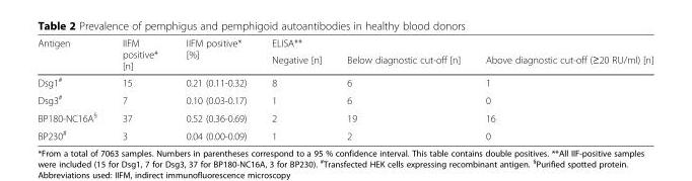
<table><thead><tr><td rowspan="2">Antigen</td><td rowspan="2">IIFM positive* [n]</td><td rowspan="2">IIFM positive* [%]</td><td colspan="3">ELISA**</td></tr><tr><td>Negative [n]</td><td>Below diagnostic cut-off [n]</td><td>Above diagnostic cut-off (≥20 RU/ml) [n]</td></tr></thead><tbody><tr><td>Dsg1<sup>#</sup></td><td>15</td><td>0.21 (0.11-0.32)</td><td>8</td><td>6</td><td>1</td></tr><tr><td>Dsg3<sup>#</sup></td><td>7</td><td>0.10 (0.03-0.17)</td><td>1</td><td>6</td><td>0</td></tr><tr><td>BP180-NC16A<sup>§</sup></td><td>37</td><td>0.52 (0.36-0.69)</td><td>2</td><td>19</td><td>16</td></tr><tr><td>BP230<sup>#</sup></td><td>3</td><td>0.04 (0.00-0.09)</td><td>1</td><td>2</td><td>0</td></tr></tbody></table>